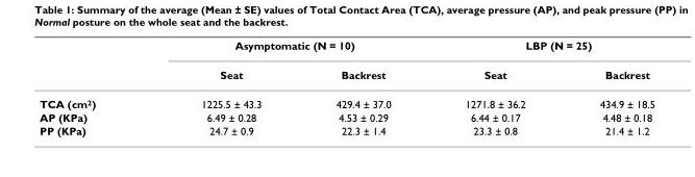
<table><thead><tr><td rowspan="2"></td><td colspan="2">Asymptomatic (N = 10)</td><td colspan="2">LBP (N = 25)</td></tr><tr><td>Seat</td><td>Backrest</td><td>Seat</td><td>Backrest</td></tr></thead><tbody><tr><td>TCA (cm<sup>2</sup>)</td><td>1225.5 ± 43.3</td><td>429.4 ± 37.0</td><td>1271.8 ± 36.2</td><td>434.9 ± 18.5</td></tr><tr><td>AP (KPa)</td><td>6.49 ± 0.28</td><td>4.53 ± 0.29</td><td>6.44 ± 0.17</td><td>4.48 ± 0.18</td></tr><tr><td>PP (KPa)</td><td>24.7 ± 0.9</td><td>22.3 ± 1.4</td><td>23.3 ± 0.8</td><td>21.4 ± 1.2</td></tr></tbody></table>